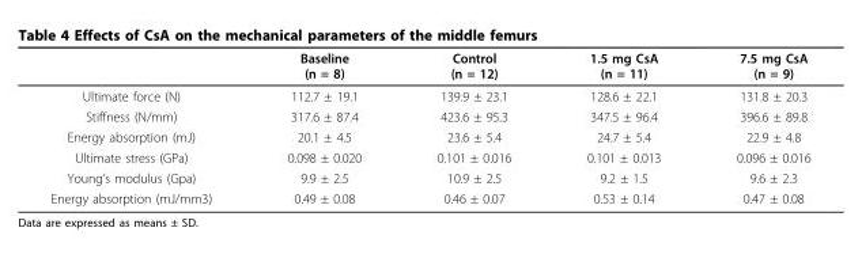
<table><thead><tr><td></td><td>Baseline (n = 8)</td><td>Control (n = 12)</td><td>1.5 mg CsA (n = 11)</td><td>7.5 mg CsA (n = 9)</td></tr></thead><tbody><tr><td>Ultimate force (N)</td><td>112.7 ± 19.1</td><td>139.9 ± 23.1</td><td>128.6 ± 22.1</td><td>131.8 ± 20.3</td></tr><tr><td>Stiffness (N/mm)</td><td>317.6 ± 87.4</td><td>423.6 ± 95.3</td><td>347.5 ± 96.4</td><td>396.6 ± 89.8</td></tr><tr><td>Energy absorption (mJ)</td><td>20.1 ± 4.5</td><td>23.6 ± 5.4</td><td>24.7 ± 5.4</td><td>22.9 ± 4.8</td></tr><tr><td>Ultimate stress (GPa)</td><td>0.098 ± 0.020</td><td>0.101 ± 0.016</td><td>0.101 ± 0.013</td><td>0.096 ± 0.016</td></tr><tr><td>Young’s modulus (Gpa)</td><td>9.9 ± 2.5</td><td>10.9 ± 2.5</td><td>9.2 ± 1.5</td><td>9.6 ± 2.3</td></tr><tr><td>Energy absorption (mJ/mm3)</td><td>0.49 ± 0.08</td><td>0.46 ± 0.07</td><td>0.53 ± 0.14</td><td>0.47 ± 0.08</td></tr></tbody></table>